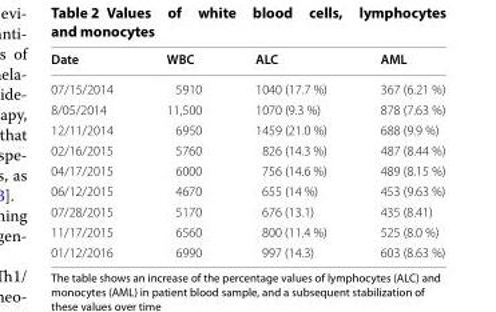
<table><thead><tr><td>Date</td><td>WBC</td><td>ALC</td><td>AML</td></tr></thead><tbody><tr><td>07/15/2014</td><td>5910</td><td>1040 (17.7 %)</td><td>367 (6.21 %)</td></tr><tr><td>8/05/2014</td><td>11,500</td><td>1070 (9.3 %)</td><td>878 (7.63 %)</td></tr><tr><td>12/11/2014</td><td>6950</td><td>1459 (21.0 %)</td><td>688 (9.9 %)</td></tr><tr><td>02/16/2015</td><td>5760</td><td>826 (14.3 %)</td><td>487 (8.44 %)</td></tr><tr><td>04/17/2015</td><td>6000</td><td>756 (14.6 %)</td><td>489 (8.15 %)</td></tr><tr><td>06/12/2015</td><td>4670</td><td>655 (14 %)</td><td>453 (9.63 %)</td></tr><tr><td>07/28/2015</td><td>5170</td><td>676 (13.1)</td><td>435 (8.41)</td></tr><tr><td>11/17/2015</td><td>6560</td><td>800 (11.4 %)</td><td>525 (8.0 %)</td></tr><tr><td>01/12/2016</td><td>6990</td><td>997 (14.3)</td><td>603 (8.63 %)</td></tr></tbody></table>